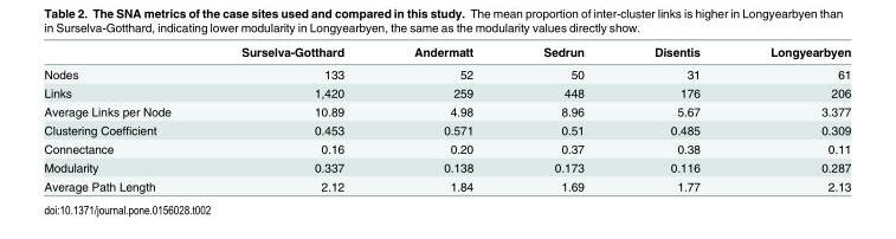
<table><thead><tr><td></td><td>Surselva-Gotthard</td><td>Andermatt</td><td>Sedrun</td><td>Disentis</td><td>Longyearbyen</td></tr></thead><tbody><tr><td>Nodes</td><td>133</td><td>52</td><td>50</td><td>31</td><td>61</td></tr><tr><td>Links</td><td>1,420</td><td>259</td><td>448</td><td>176</td><td>206</td></tr><tr><td>Average Links per Node</td><td>10.89</td><td>4.98</td><td>8.96</td><td>5.67</td><td>3.377</td></tr><tr><td>Clustering Coefficient</td><td>0.453</td><td>0.571</td><td>0.51</td><td>0.485</td><td>0.309</td></tr><tr><td>Connectance</td><td>0.16</td><td>0.20</td><td>0.37</td><td>0.38</td><td>0.11</td></tr><tr><td>Modularity</td><td>0.337</td><td>0.138</td><td>0.173</td><td>0.116</td><td>0.287</td></tr><tr><td>Average Path Length</td><td>2.12</td><td>1.84</td><td>1.69</td><td>1.77</td><td>2.13</td></tr></tbody></table>